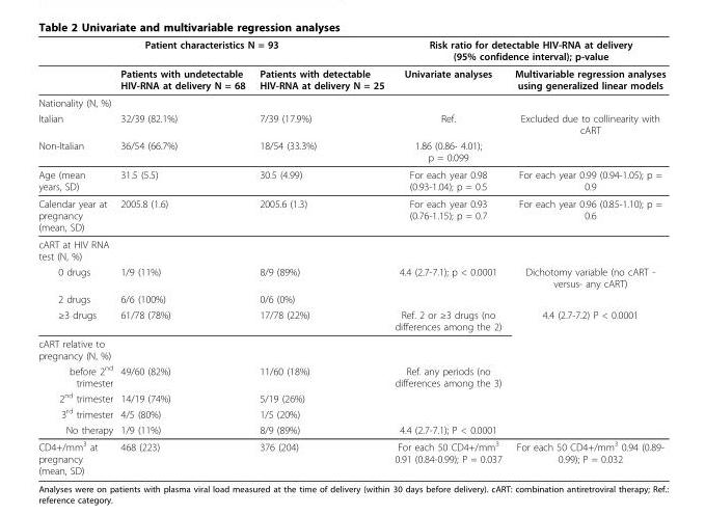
<table><thead><tr><td colspan="3">Patient characteristics N = 93</td><td colspan="2">Risk ratio for detectable HIV-RNA at delivery (95% confidence interval); p-value</td></tr><tr><td></td><td>Patients with undetectable HIV-RNA at delivery N = 68</td><td>Patients with detectable HIV-RNA at delivery N = 25</td><td>Univariate analyses</td><td>Multivariable regression analyses using generalized linear models</td></tr></thead><tbody><tr><td colspan="5">Nationality (N, %)</td></tr><tr><td>Italian</td><td>32/39 (82.1%)</td><td>7/39 (17.9%)</td><td>Ref.</td><td>Excluded due to collinearity with cART</td></tr><tr><td>Non-Italian</td><td>36/54 (66.7%)</td><td>18/54 (33.3%)</td><td>1.86 (0.86- 4.01); p = 0.099</td><td></td></tr><tr><td>Age (mean years, SD)</td><td>31.5 (5.5)</td><td>30.5 (4.99)</td><td>For each year 0.98 (0.93-1.04); p = 0.5</td><td>For each year 0.99 (0.94-1.05); p = 0.9</td></tr><tr><td>Calendar year at pregnancy (mean, SD)</td><td>2005.8 (1.6)</td><td>2005.6 (1.3)</td><td>For each year 0.93 (0.76-1.15); p = 0.7</td><td>For each year 0.96 (0.85-1.10); p = 0.6</td></tr><tr><td colspan="5">cART at HIV RNA test (N, %)</td></tr><tr><td>0 drugs</td><td>1/9 (11%)</td><td>8/9 (89%)</td><td>4.4 (2.7-7.1); p &lt; 0.0001</td><td>Dichotomy variable (no cART - versus- any cART)</td></tr><tr><td>2 drugs</td><td>6/6 (100%)</td><td>0/6 (0%)</td><td></td><td></td></tr><tr><td>≥3 drugs</td><td>61/78 (78%)</td><td>17/78 (22%)</td><td>Ref. 2 or ≥3 drugs (no differences among the 2)</td><td>4.4 (2.7-7.2) P &lt; 0.0001</td></tr><tr><td colspan="5">cART relative to pregnancy (N, %)</td></tr><tr><td>before 2<sup>nd</sup> trimester</td><td>49/60 (82%)</td><td>11/60 (18%)</td><td>Ref. any periods (no differences among the 3)</td><td></td></tr><tr><td>2<sup>nd</sup> trimester</td><td>14/19 (74%)</td><td>5/19 (26%)</td><td></td><td></td></tr><tr><td>3<sup>rd</sup> trimester</td><td>4/5 (80%)</td><td>1/5 (20%)</td><td></td><td></td></tr><tr><td>No therapy</td><td>1/9 (11%)</td><td>8/9 (89%)</td><td>4.4 (2.7-7.1); P &lt; 0.0001</td><td></td></tr><tr><td>CD4+/mm<sup>3</sup> at pregnancy (mean, SD)</td><td>468 (223)</td><td>376 (204)</td><td>For each 50 CD4+/mm<sup>3</sup> 0.91 (0.84-0.99); P = 0.037</td><td>For each 50 CD4+/mm<sup>3</sup> 0.94 (0.89- 0.99); P = 0.032</td></tr></tbody></table>